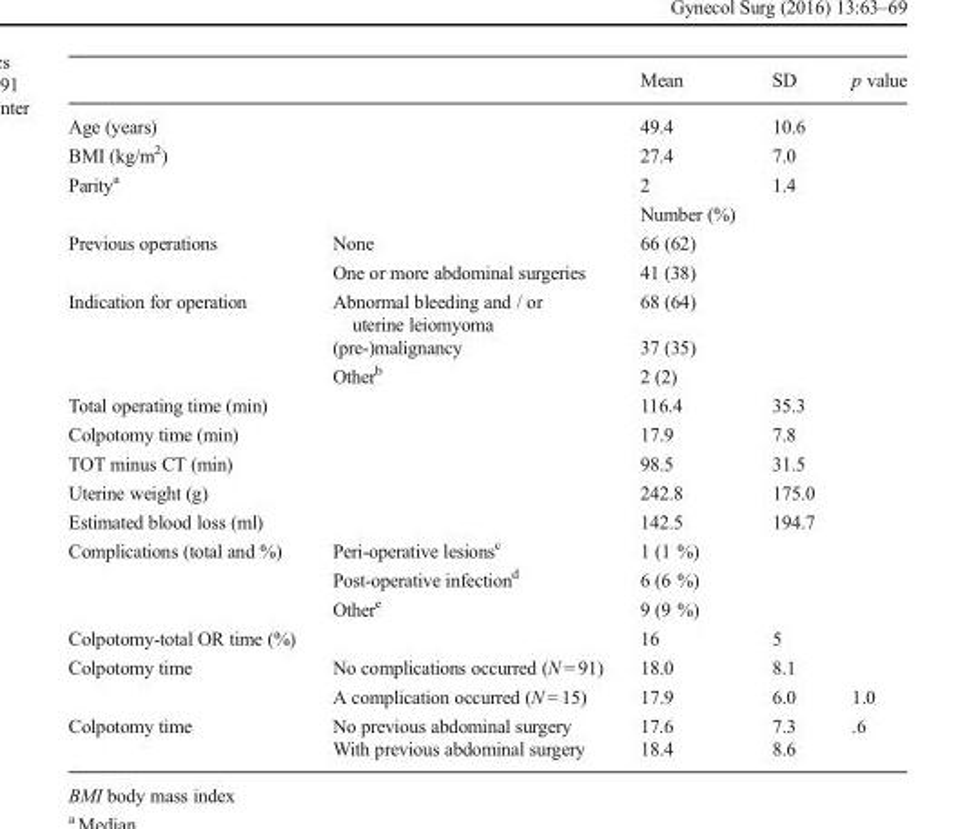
<table><thead><tr><td></td><td></td><td>Mean</td><td>SD</td><td>p value</td></tr></thead><tbody><tr><td>Age (years)</td><td></td><td>49.4</td><td>10.6</td><td></td></tr><tr><td>BMI (kg/m<sup>2</sup>)</td><td></td><td>27.4</td><td>7.0</td><td></td></tr><tr><td rowspan="2">Parity<sup>a</sup></td><td></td><td>2</td><td>1.4</td><td></td></tr><tr><td></td><td>Number (%)</td><td></td><td></td></tr><tr><td rowspan="2">Previous operations</td><td>None</td><td>66 (62)</td><td></td><td></td></tr><tr><td>One or more abdominal surgeries</td><td>41 (38)</td><td></td><td></td></tr><tr><td rowspan="3">Indication for operation</td><td>Abnormal bleeding and / or uterine leiomyoma</td><td>68 (64)</td><td></td><td></td></tr><tr><td>(pre-)malignancy</td><td>37 (35)</td><td></td><td></td></tr><tr><td>Other<sup>b</sup></td><td>2 (2)</td><td></td><td></td></tr><tr><td>Total operating time (min)</td><td></td><td>116.4</td><td>35.3</td><td></td></tr><tr><td>Colpotomy time (min)</td><td></td><td>17.9</td><td>7.8</td><td></td></tr><tr><td>TOT minus CT (min)</td><td></td><td>98.5</td><td>31.5</td><td></td></tr><tr><td>Uterine weight (g)</td><td></td><td>242.8</td><td>175.0</td><td></td></tr><tr><td>Estimated blood loss (ml)</td><td></td><td>142.5</td><td>194.7</td><td></td></tr><tr><td rowspan="3">Complications (total and %)</td><td>Peri-operative lesions<sup>c</sup></td><td>1 (1 %)</td><td></td><td></td></tr><tr><td>Post-operative infection<sup>d</sup></td><td>6 (6 %)</td><td></td><td></td></tr><tr><td>Other<sup>e</sup></td><td>9 (9 %)</td><td></td><td></td></tr><tr><td>Colpotomy-total OR time (%)</td><td></td><td>16</td><td>5</td><td></td></tr><tr><td rowspan="2">Colpotomy time</td><td>No complications occurred (N = 91)</td><td>18.0</td><td>8.1</td><td></td></tr><tr><td>A complication occurred (N = 15)</td><td>17.9</td><td>6.0</td><td>1.0</td></tr><tr><td rowspan="2">Colpotomy time</td><td>No previous abdominal surgery</td><td>17.6</td><td>7.3</td><td rowspan="2">.6</td></tr><tr><td>With previous abdominal surgery</td><td>18.4</td><td>8.6</td></tr></tbody></table>